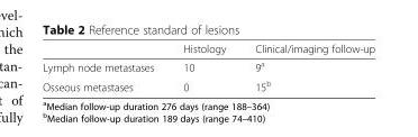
<table><thead><tr><td></td><td>Histology</td><td>Clinical/imaging follow-up</td></tr></thead><tbody><tr><td>Lymph node metastases</td><td>10</td><td>9<sup>a</sup></td></tr><tr><td>Osseous metastases</td><td>0</td><td>15<sup>b</sup></td></tr></tbody></table>